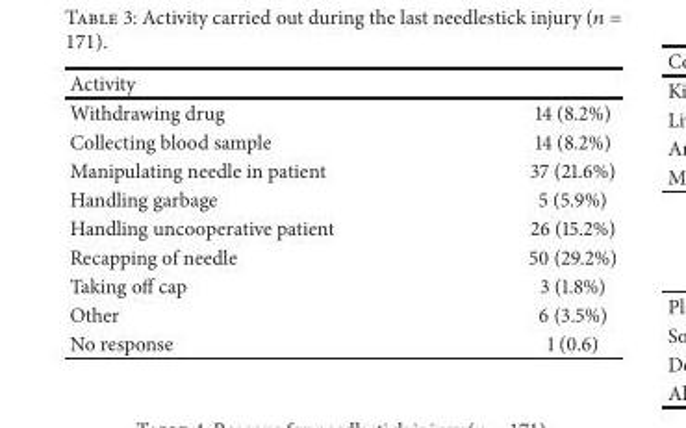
<table><thead><tr><td>Activity</td><td></td></tr></thead><tbody><tr><td>Withdrawing drug</td><td>14 (8.2%)</td></tr><tr><td>Collecting blood sample</td><td>14 (8.2%)</td></tr><tr><td>Manipulating needle in patient</td><td>37 (21.6%)</td></tr><tr><td>Handling garbage</td><td>5 (5.9%)</td></tr><tr><td>Handling uncooperative patient</td><td>26 (15.2%)</td></tr><tr><td>Recapping of needle</td><td>50 (29.2%)</td></tr><tr><td>Taking off cap</td><td>3 (1.8%)</td></tr><tr><td>Other</td><td>6 (3.5%)</td></tr><tr><td>No response</td><td>1 (0.6)</td></tr></tbody></table>